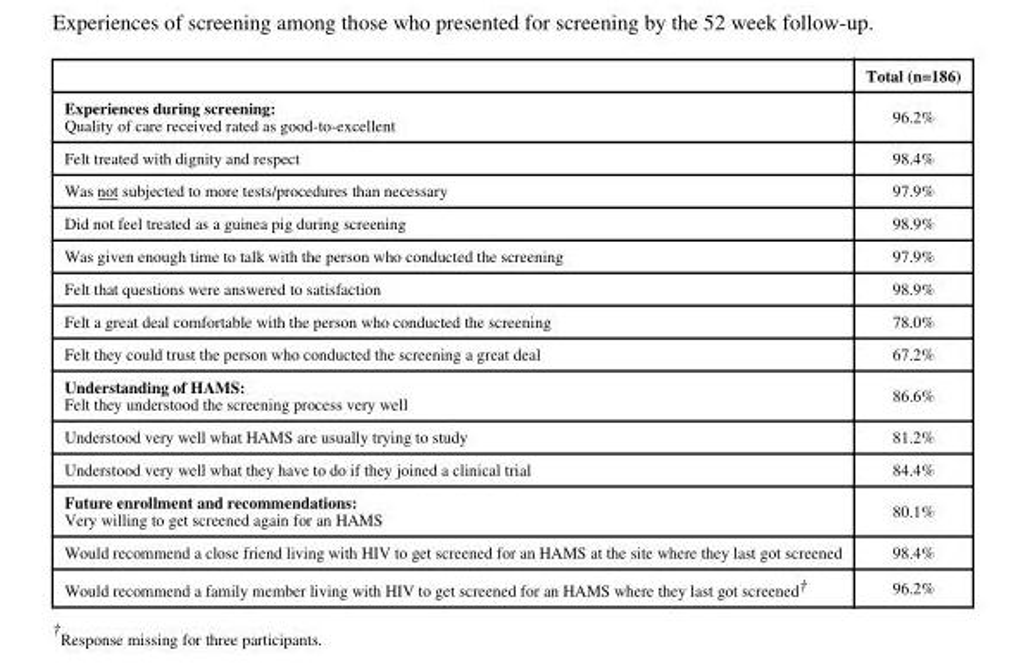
<table><thead><tr><td></td><td>Total (n=186)</td></tr></thead><tbody><tr><td>Experiences during screening: Quality of care received rated as good-to-excellent</td><td>96.2%</td></tr><tr><td>Felt treated with dignity and respect</td><td>98.4%</td></tr><tr><td>Was not subjected to more tests/procedures than necessary</td><td>97.9%</td></tr><tr><td>Did not feel treated as a guinea pig during screening</td><td>98.9%</td></tr><tr><td>Was given enough time to talk with the person who conducted the screening</td><td>97.9%</td></tr><tr><td>Felt that questions were answered to satisfaction</td><td>98.9%</td></tr><tr><td>Felt a great deal comfortable with the person who conducted the screening</td><td>78.0%</td></tr><tr><td>Felt they could trust the person who conducted the screening a great deal</td><td>67.2%</td></tr><tr><td>Understanding of HAMS: Felt they understood the screening process very well</td><td>86.6%</td></tr><tr><td>Understood very well what HAMS are usually trying to study</td><td>81.2%</td></tr><tr><td>Understood very well what they have to do if they joined a clinical trial</td><td>84.4%</td></tr><tr><td>Future enrollment and recommendations: Very willing to get screened again for an HAMS</td><td>80.1%</td></tr><tr><td>Would recommend a close friend living with HIV to get screened for an HAMS at the site where they last got screened</td><td>98.4%</td></tr><tr><td>Would recommend a family member living with HIV to get screened for an HAMS where they last got screened†</td><td>96.2%</td></tr></tbody></table>